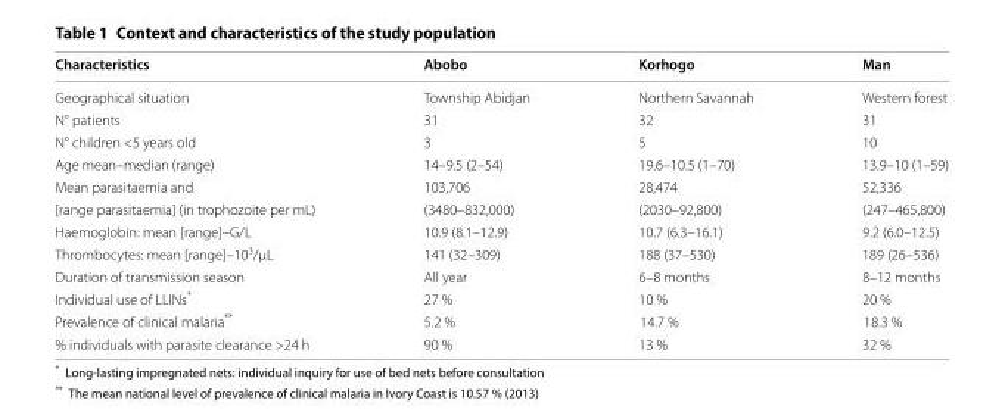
<table><thead><tr><td>Characteristics</td><td>Abobo</td><td>Korhogo</td><td>Man</td></tr></thead><tbody><tr><td>Geographical situation</td><td>Township Abidjan</td><td>Northern Savannah</td><td>Western forest</td></tr><tr><td>N° patients</td><td>31</td><td>32</td><td>31</td></tr><tr><td>N° children &lt;5 years old</td><td>3</td><td>5</td><td>10</td></tr><tr><td>Age mean–median (range)</td><td>14–9.5 (2–54)</td><td>19.6–10.5 (1–70)</td><td>13.9–10 (1–59)</td></tr><tr><td>Mean parasitaemia and</td><td>103,706</td><td>28,474</td><td>52,336</td></tr><tr><td>[range parasitaemia] (in trophozoite per mL)</td><td>(3480–832,000)</td><td>(2030–92,800)</td><td>(247–465,800)</td></tr><tr><td>Haemoglobin: mean [range]–G/L</td><td>10.9 (8.1–12.9)</td><td>10.7 (6.3–16.1)</td><td>9.2 (6.0–12.5)</td></tr><tr><td>Thrombocytes: mean [range]–10<sup>3</sup>/μL</td><td>141 (32–309)</td><td>188 (37–530)</td><td>189 (26–536)</td></tr><tr><td>Duration of transmission season</td><td>All year</td><td>6–8 months</td><td>8–12 months</td></tr><tr><td>Individual use of LLINs*</td><td>27 %</td><td>10 %</td><td>20 %</td></tr><tr><td>Prevalence of clinical malaria**</td><td>5.2 %</td><td>14.7 %</td><td>18.3 %</td></tr><tr><td>% individuals with parasite clearance &gt;24 h</td><td>90 %</td><td>13 %</td><td>32 %</td></tr></tbody></table>